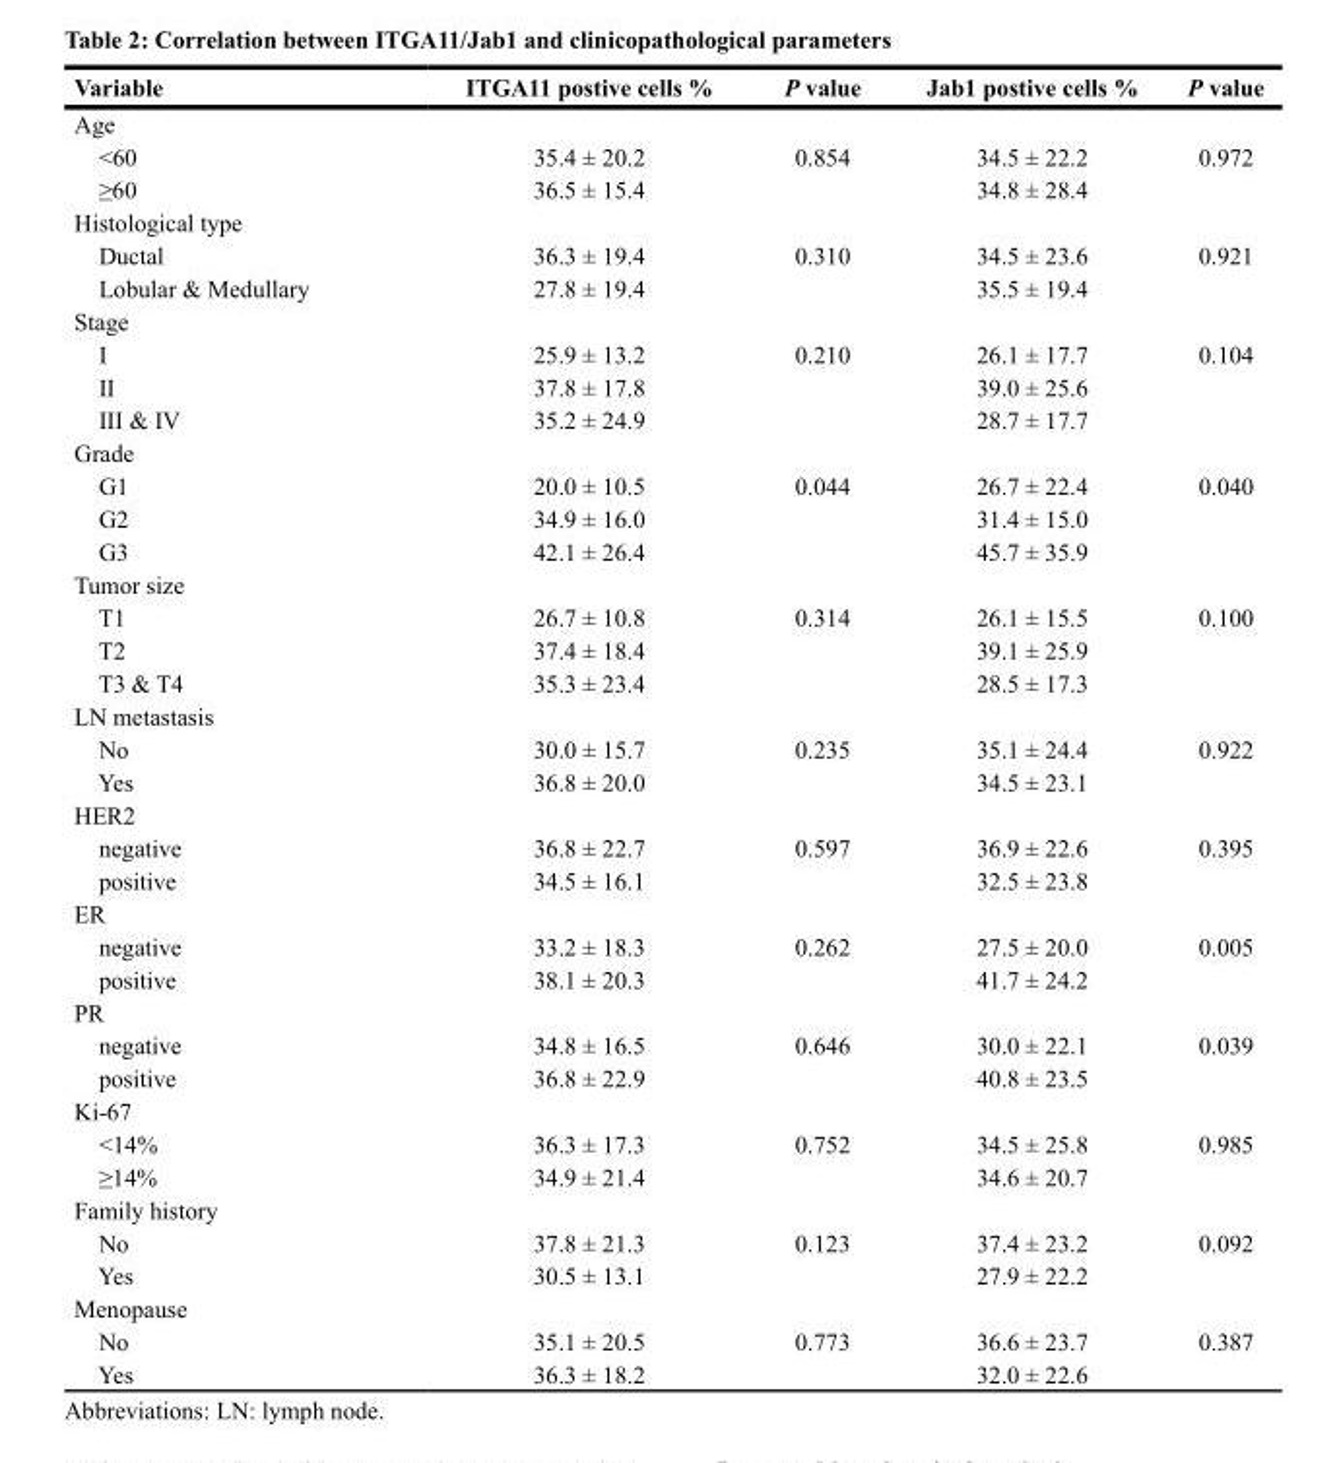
<table><thead><tr><td>Variable</td><td>ITGA11 postive cells %</td><td>P value</td><td>Jab1 postive cells %</td><td>P value</td></tr></thead><tbody><tr><td colspan="5">Age</td></tr><tr><td>&lt;60</td><td>35.4 ± 20.2</td><td>0.854</td><td>34.5 ± 22.2</td><td>0.972</td></tr><tr><td>≥60</td><td>36.5 ± 15.4</td><td></td><td>34.8 ± 28.4</td><td></td></tr><tr><td colspan="5">Histological type</td></tr><tr><td>Ductal</td><td>36.3 ± 19.4</td><td>0.310</td><td>34.5 ± 23.6</td><td>0.921</td></tr><tr><td>Lobular &amp; Medullary</td><td>27.8 ± 19.4</td><td></td><td>35.5 ± 19.4</td><td></td></tr><tr><td colspan="5">Stage</td></tr><tr><td>I</td><td>25.9 ± 13.2</td><td>0.210</td><td>26.1 ± 17.7</td><td>0.104</td></tr><tr><td>II</td><td>37.8 ± 17.8</td><td></td><td>39.0 ± 25.6</td><td></td></tr><tr><td>III &amp; IV</td><td>35.2 ± 24.9</td><td></td><td>28.7 ± 17.7</td><td></td></tr><tr><td colspan="5">Grade</td></tr><tr><td>G1</td><td>20.0 ± 10.5</td><td>0.044</td><td>26.7 ± 22.4</td><td>0.040</td></tr><tr><td>G2</td><td>34.9 ± 16.0</td><td></td><td>31.4 ± 15.0</td><td></td></tr><tr><td>G3</td><td>42.1 ± 26.4</td><td></td><td>45.7 ± 35.9</td><td></td></tr><tr><td colspan="5">Tumor size</td></tr><tr><td>T1</td><td>26.7 ± 10.8</td><td>0.314</td><td>26.1 ± 15.5</td><td>0.100</td></tr><tr><td>T2</td><td>37.4 ± 18.4</td><td></td><td>39.1 ± 25.9</td><td></td></tr><tr><td>T3 &amp; T4</td><td>35.3 ± 23.4</td><td></td><td>28.5 ± 17.3</td><td></td></tr><tr><td colspan="5">LN metastasis</td></tr><tr><td>No</td><td>30.0 ± 15.7</td><td>0.235</td><td>35.1 ± 24.4</td><td>0.922</td></tr><tr><td>Yes</td><td>36.8 ± 20.0</td><td></td><td>34.5 ± 23.1</td><td></td></tr><tr><td colspan="5">HER2</td></tr><tr><td>negative</td><td>36.8 ± 22.7</td><td>0.597</td><td>36.9 ± 22.6</td><td>0.395</td></tr><tr><td>positive</td><td>34.5 ± 16.1</td><td></td><td>32.5 ± 23.8</td><td></td></tr><tr><td colspan="5">ER</td></tr><tr><td>negative</td><td>33.2 ± 18.3</td><td>0.262</td><td>27.5 ± 20.0</td><td>0.005</td></tr><tr><td>positive</td><td>38.1 ± 20.3</td><td></td><td>41.7 ± 24.2</td><td></td></tr><tr><td colspan="5">PR</td></tr><tr><td>negative</td><td>34.8 ± 16.5</td><td>0.646</td><td>30.0 ± 22.1</td><td>0.039</td></tr><tr><td>positive</td><td>36.8 ± 22.9</td><td></td><td>40.8 ± 23.5</td><td></td></tr><tr><td colspan="5">Ki-67</td></tr><tr><td>&lt;14%</td><td>36.3 ± 17.3</td><td>0.752</td><td>34.5 ± 25.8</td><td>0.985</td></tr><tr><td>≥14%</td><td>34.9 ± 21.4</td><td></td><td>34.6 ± 20.7</td><td></td></tr><tr><td colspan="5">Family history</td></tr><tr><td>No</td><td>37.8 ± 21.3</td><td>0.123</td><td>37.4 ± 23.2</td><td>0.092</td></tr><tr><td>Yes</td><td>30.5 ± 13.1</td><td></td><td>27.9 ± 22.2</td><td></td></tr><tr><td colspan="5">Menopause</td></tr><tr><td>No</td><td>35.1 ± 20.5</td><td>0.773</td><td>36.6 ± 23.7</td><td>0.387</td></tr><tr><td>Yes</td><td>36.3 ± 18.2</td><td></td><td>32.0 ± 22.6</td><td></td></tr></tbody></table>